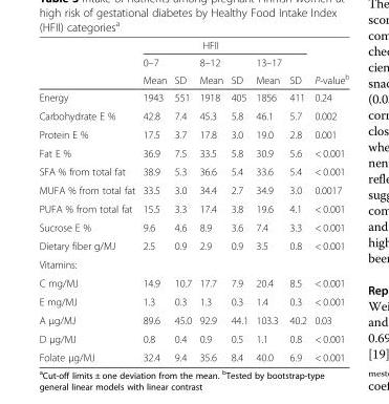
<table><thead><tr><td rowspan="3"></td><td colspan="6">HFII</td><td rowspan="3">P-value<sup>b</sup></td></tr><tr><td rowspan="2">0–7 Mean</td><td rowspan="2">SD</td><td rowspan="2">8–12 Mean</td><td rowspan="2">SD</td><td rowspan="2">13–17 Mean</td><td rowspan="2">SD</td></tr><tr></tr></thead><tbody><tr><td>Energy</td><td>1943</td><td>551</td><td>1918</td><td>405</td><td>1856</td><td>411</td><td>0.24</td></tr><tr><td>Carbohydrate E %</td><td>42.8</td><td>7.4</td><td>45.3</td><td>5.8</td><td>46.1</td><td>5.7</td><td>0.002</td></tr><tr><td>Protein E %</td><td>17.5</td><td>3.7</td><td>17.8</td><td>3.0</td><td>19.0</td><td>2.8</td><td>0.001</td></tr><tr><td>Fat E %</td><td>36.9</td><td>7.5</td><td>33.5</td><td>5.8</td><td>30.9</td><td>5.6</td><td>&lt; 0.001</td></tr><tr><td>SFA % from total fat</td><td>38.9</td><td>5.3</td><td>36.6</td><td>5.4</td><td>33.6</td><td>5.4</td><td>&lt; 0.001</td></tr><tr><td>MUFA % from total fat</td><td>33.5</td><td>3.0</td><td>34.4</td><td>2.7</td><td>34.9</td><td>3.0</td><td>0.0017</td></tr><tr><td>PUFA % from total fat</td><td>15.5</td><td>3.3</td><td>17.4</td><td>3.8</td><td>19.6</td><td>4.1</td><td>&lt; 0.001</td></tr><tr><td>Sucrose E %</td><td>9.6</td><td>4.6</td><td>8.9</td><td>3.6</td><td>7.4</td><td>3.3</td><td>&lt; 0.001</td></tr><tr><td>Dietary fiber g/MJ</td><td>2.5</td><td>0.9</td><td>2.9</td><td>0.9</td><td>3.5</td><td>0.8</td><td>&lt; 0.001</td></tr><tr><td colspan="8">Vitamins:</td></tr><tr><td>C mg/MJ</td><td>14.9</td><td>10.7</td><td>17.7</td><td>7.9</td><td>20.4</td><td>8.5</td><td>&lt; 0.001</td></tr><tr><td>E mg/MJ</td><td>1.3</td><td>0.3</td><td>1.3</td><td>0.3</td><td>1.4</td><td>0.3</td><td>&lt; 0.001</td></tr><tr><td>A μg/MJ</td><td>89.6</td><td>45.0</td><td>92.9</td><td>44.1</td><td>103.3</td><td>40.2</td><td>0.03</td></tr><tr><td>D μg/MJ</td><td>0.8</td><td>0.4</td><td>0.9</td><td>0.5</td><td>1.1</td><td>0.8</td><td>&lt; 0.001</td></tr><tr><td>Folate μg/MJ</td><td>32.4</td><td>9.4</td><td>35.6</td><td>8.4</td><td>40.0</td><td>6.9</td><td>&lt; 0.001</td></tr></tbody></table>